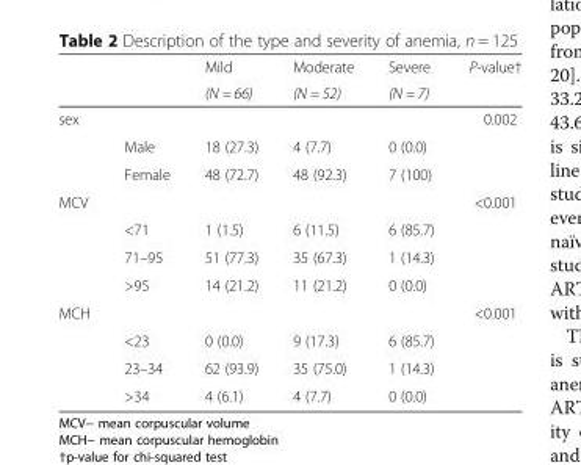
<table><thead><tr><td rowspan="2"></td><td rowspan="2"></td><td rowspan="2">Mild (N = 66)</td><td rowspan="2">Moderate (N = 52)</td><td rowspan="2">Severe (N = 7)</td><td rowspan="2">P-value†</td></tr><tr></tr></thead><tbody><tr><td rowspan="3">sex</td><td></td><td></td><td></td><td></td><td>0.002</td></tr><tr><td>Male</td><td>18 (27.3)</td><td>4 (7.7)</td><td>0 (0.0)</td><td></td></tr><tr><td>Female</td><td>48 (72.7)</td><td>48 (92.3)</td><td>7 (100)</td><td></td></tr><tr><td rowspan="4">MCV</td><td></td><td></td><td></td><td></td><td>&lt;0.001</td></tr><tr><td>&lt;71</td><td>1 (1.5)</td><td>6 (11.5)</td><td>6 (85.7)</td><td></td></tr><tr><td>71–95</td><td>51 (77.3)</td><td>35 (67.3)</td><td>1 (14.3)</td><td></td></tr><tr><td>&gt;95</td><td>14 (21.2)</td><td>11 (21.2)</td><td>0 (0.0)</td><td></td></tr><tr><td rowspan="4">MCH</td><td></td><td></td><td></td><td></td><td>&lt;0.001</td></tr><tr><td>&lt;23</td><td>0 (0.0)</td><td>9 (17.3)</td><td>6 (85.7)</td><td></td></tr><tr><td>23–34</td><td>62 (93.9)</td><td>35 (75.0)</td><td>1 (14.3)</td><td></td></tr><tr><td>&gt;34</td><td>4 (6.1)</td><td>4 (7.7)</td><td>0 (0.0)</td><td></td></tr></tbody></table>